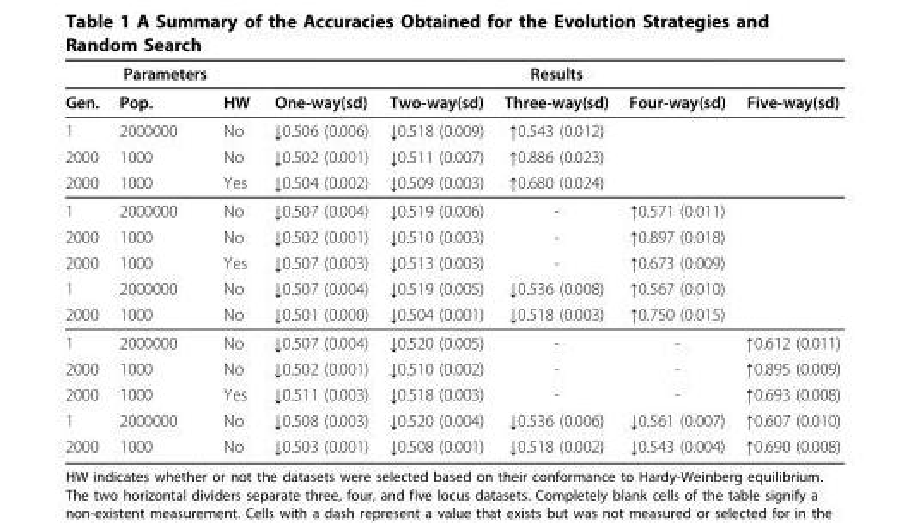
<table><thead><tr><td rowspan="2">Gen.</td><td rowspan="2">Parameters Pop.</td><td rowspan="2">HW</td><td rowspan="2">One-way(sd)</td><td rowspan="2">Two-way(sd)</td><td rowspan="2">Results Three-way(sd)</td><td rowspan="2">Four-way(sd)</td><td rowspan="2">Five-way(sd)</td></tr><tr></tr></thead><tbody><tr><td>1</td><td>2000000</td><td>No</td><td>↓0.506 (0.006)</td><td>↓0.518 (0.009)</td><td>↑0.543 (0.012)</td><td></td><td></td></tr><tr><td>2000</td><td>1000</td><td>No</td><td>↓0.502 (0.001)</td><td>↓0.511 (0.007)</td><td>↑0.886 (0.023)</td><td></td><td></td></tr><tr><td>2000</td><td>1000</td><td>Yes</td><td>↓0.504 (0.002)</td><td>↓0.509 (0.003)</td><td>↑0.680 (0.024)</td><td></td><td></td></tr><tr><td>1</td><td>2000000</td><td>No</td><td>↓0.507 (0.004)</td><td>↓0.519 (0.006)</td><td>-</td><td>↑0.571 (0.011)</td><td></td></tr><tr><td>2000</td><td>1000</td><td>No</td><td>↓0.502 (0.001)</td><td>↓0.510 (0.003)</td><td>-</td><td>↑0.897 (0.018)</td><td></td></tr><tr><td>2000</td><td>1000</td><td>Yes</td><td>↓0.507 (0.003)</td><td>↓0.513 (0.003)</td><td>-</td><td>↑0.673 (0.009)</td><td></td></tr><tr><td>1</td><td>2000000</td><td>No</td><td>↓0.507 (0.004)</td><td>↓0.519 (0.005)</td><td>↓0.536 (0.008)</td><td>↑0.567 (0.010)</td><td></td></tr><tr><td>2000</td><td>1000</td><td>No</td><td>↓0.501 (0.000)</td><td>↓0.504 (0.001)</td><td>↓0.518 (0.003)</td><td>↑0.750 (0.015)</td><td></td></tr><tr><td>1</td><td>2000000</td><td>No</td><td>↓0.507 (0.004)</td><td>↓0.520 (0.005)</td><td>-</td><td>-</td><td>↑0.612 (0.011)</td></tr><tr><td>2000</td><td>1000</td><td>No</td><td>↓0.502 (0.001)</td><td>↓0.510 (0.002)</td><td>-</td><td>-</td><td>↑0.895 (0.009)</td></tr><tr><td>2000</td><td>1000</td><td>Yes</td><td>↓0.511 (0.003)</td><td>↓0.518 (0.003)</td><td>-</td><td>-</td><td>↑0.693 (0.008)</td></tr><tr><td>1</td><td>2000000</td><td>No</td><td>↓0.508 (0.003)</td><td>↓0.520 (0.004)</td><td>↓0.536 (0.006)</td><td>↓0.561 (0.007)</td><td>↑0.607 (0.010)</td></tr><tr><td>2000</td><td>1000</td><td>No</td><td>↓0.503 (0.001)</td><td>↓0.508 (0.001)</td><td>↓0.518 (0.002)</td><td>↓0.543 (0.004)</td><td>↑0.690 (0.008)</td></tr></tbody></table>